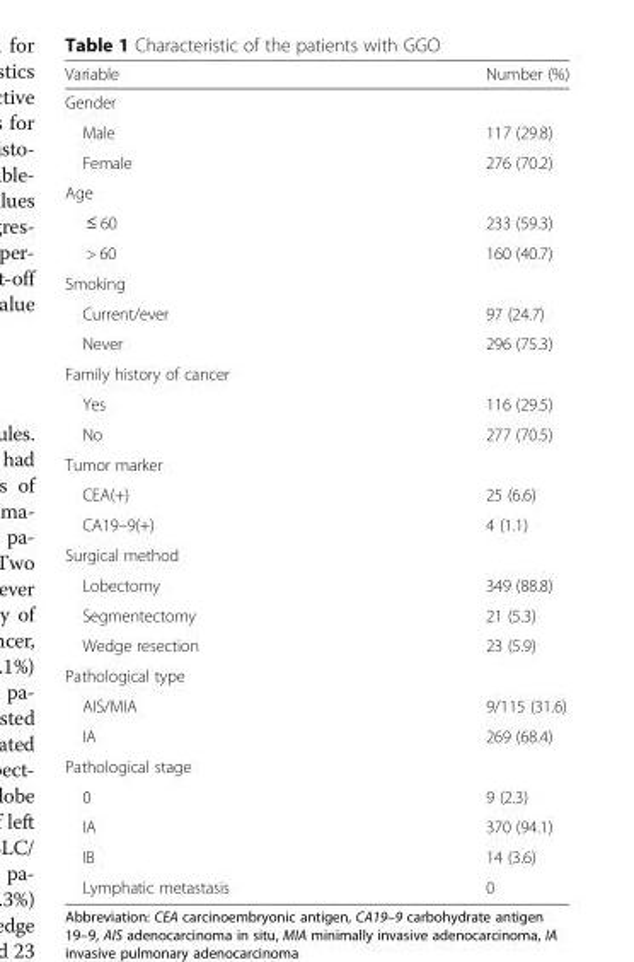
<table><thead><tr><td>Variable</td><td>Number (%)</td></tr></thead><tbody><tr><td colspan="2">Gender</td></tr><tr><td>Male</td><td>117 (29.8)</td></tr><tr><td>Female</td><td>276 (70.2)</td></tr><tr><td colspan="2">Age</td></tr><tr><td>≤ 60</td><td>233 (59.3)</td></tr><tr><td>&gt; 60</td><td>160 (40.7)</td></tr><tr><td colspan="2">Smoking</td></tr><tr><td>Current/ever</td><td>97 (24.7)</td></tr><tr><td>Never</td><td>296 (75.3)</td></tr><tr><td colspan="2">Family history of cancer</td></tr><tr><td>Yes</td><td>116 (29.5)</td></tr><tr><td>No</td><td>277 (70.5)</td></tr><tr><td colspan="2">Tumor marker</td></tr><tr><td>CEA(+)</td><td>25 (6.6)</td></tr><tr><td>CA19–9(+)</td><td>4 (1.1)</td></tr><tr><td colspan="2">Surgical method</td></tr><tr><td>Lobectomy</td><td>349 (88.8)</td></tr><tr><td>Segmentectomy</td><td>21 (5.3)</td></tr><tr><td>Wedge resection</td><td>23 (5.9)</td></tr><tr><td colspan="2">Pathological type</td></tr><tr><td>AIS/MIA</td><td>9/115 (31.6)</td></tr><tr><td>IA</td><td>269 (68.4)</td></tr><tr><td colspan="2">Pathological stage</td></tr><tr><td>0</td><td>9 (2.3)</td></tr><tr><td>IA</td><td>370 (94.1)</td></tr><tr><td>IB</td><td>14 (3.6)</td></tr><tr><td>Lymphatic metastasis</td><td>0</td></tr></tbody></table>